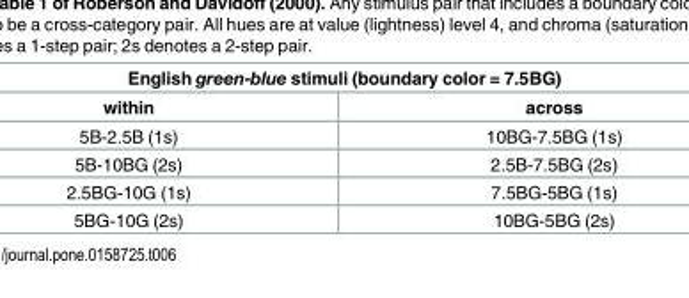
<table><thead><tr><td colspan="2">English green-blue stimuli (boundary color = 7.5BG)</td></tr><tr><td>within</td><td>across</td></tr></thead><tbody><tr><td>5B-2.5B (1s)</td><td>10BG-7.5BG (1s)</td></tr><tr><td>5B-10BG (2s)</td><td>2.5B-7.5BG (2s)</td></tr><tr><td>2.5BG-10G (1s)</td><td>7.5BG-5BG (1s)</td></tr><tr><td>5BG-10G (2s)</td><td>10BG-5BG (2s)</td></tr></tbody></table>